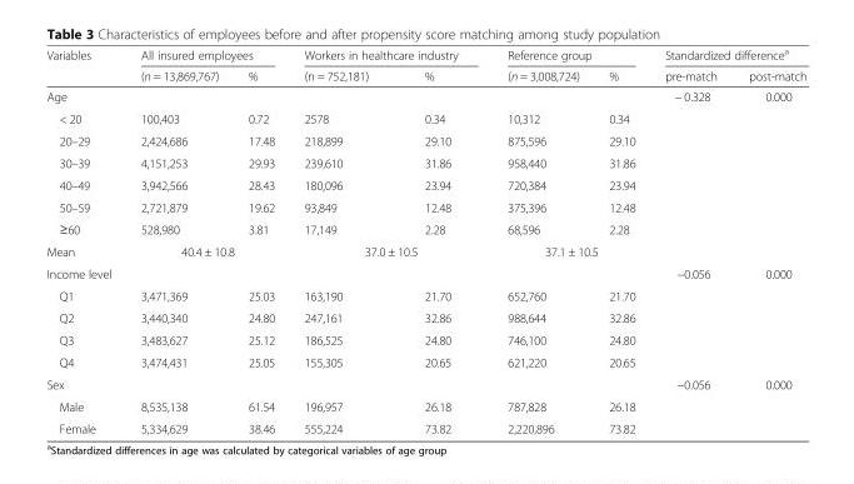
<table><thead><tr><td rowspan="2">Variables</td><td colspan="2">All insured employees</td><td colspan="2">Workers in healthcare industry</td><td colspan="2">Reference group</td><td colspan="2">Standardized difference<sup>a</sup></td></tr><tr><td>(n = 13,869,767)</td><td>%</td><td>(n = 752,181)</td><td>%</td><td>(n = 3,008,724)</td><td>%</td><td>pre-match</td><td>post-match</td></tr></thead><tbody><tr><td>Age</td><td></td><td></td><td></td><td></td><td></td><td></td><td>− 0.328</td><td>0.000</td></tr><tr><td>&lt; 20</td><td>100,403</td><td>0.72</td><td>2578</td><td>0.34</td><td>10,312</td><td>0.34</td><td></td><td></td></tr><tr><td>20–29</td><td>2,424,686</td><td>17.48</td><td>218,899</td><td>29.10</td><td>875,596</td><td>29.10</td><td></td><td></td></tr><tr><td>30–39</td><td>4,151,253</td><td>29.93</td><td>239,610</td><td>31.86</td><td>958,440</td><td>31.86</td><td></td><td></td></tr><tr><td>40–49</td><td>3,942,566</td><td>28.43</td><td>180,096</td><td>23.94</td><td>720,384</td><td>23.94</td><td></td><td></td></tr><tr><td>50–59</td><td>2,721,879</td><td>19.62</td><td>93,849</td><td>12.48</td><td>375,396</td><td>12.48</td><td></td><td></td></tr><tr><td>≥60</td><td>528,980</td><td>3.81</td><td>17,149</td><td>2.28</td><td>68,596</td><td>2.28</td><td></td><td></td></tr><tr><td>Mean</td><td colspan="2">40.4 ± 10.8</td><td colspan="2">37.0 ± 10.5</td><td colspan="2">37.1 ± 10.5</td><td></td><td></td></tr><tr><td>Income level</td><td></td><td></td><td></td><td></td><td></td><td></td><td>−0.056</td><td>0.000</td></tr><tr><td>Q1</td><td>3,471,369</td><td>25.03</td><td>163,190</td><td>21.70</td><td>652,760</td><td>21.70</td><td></td><td></td></tr><tr><td>Q2</td><td>3,440,340</td><td>24.80</td><td>247,161</td><td>32.86</td><td>988,644</td><td>32.86</td><td></td><td></td></tr><tr><td>Q3</td><td>3,483,627</td><td>25.12</td><td>186,525</td><td>24.80</td><td>746,100</td><td>24.80</td><td></td><td></td></tr><tr><td>Q4</td><td>3,474,431</td><td>25.05</td><td>155,305</td><td>20.65</td><td>621,220</td><td>20.65</td><td></td><td></td></tr><tr><td>Sex</td><td></td><td></td><td></td><td></td><td></td><td></td><td>−0.056</td><td>0.000</td></tr><tr><td>Male</td><td>8,535,138</td><td>61.54</td><td>196,957</td><td>26.18</td><td>787,828</td><td>26.18</td><td></td><td></td></tr><tr><td>Female</td><td>5,334,629</td><td>38.46</td><td>555,224</td><td>73.82</td><td>2,220,896</td><td>73.82</td><td></td><td></td></tr></tbody></table>